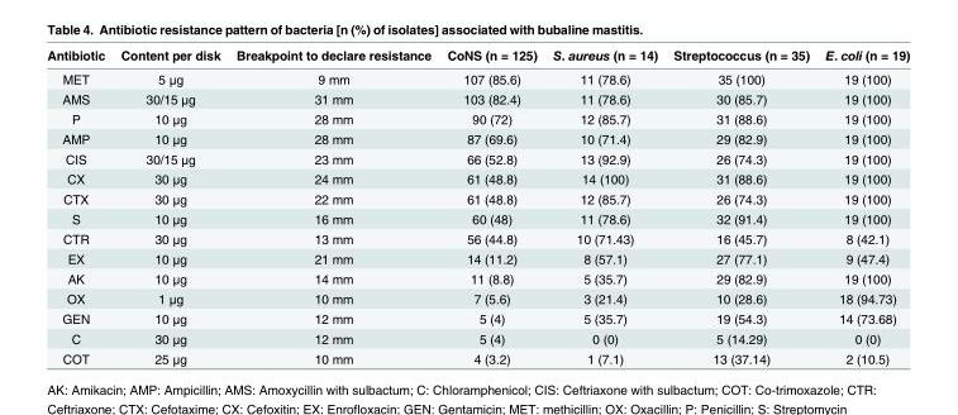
<table><thead><tr><td>Antibiotic</td><td>Content per disk</td><td>Breakpoint to declare resistance</td><td>CoNS (n = 125)</td><td>S. aureus (n = 14)</td><td>Streptococcus (n = 35)</td><td>E. coli (n = 19)</td></tr></thead><tbody><tr><td>MET</td><td>5 μg</td><td>9 mm</td><td>107 (85.6)</td><td>11 (78.6)</td><td>35 (100)</td><td>19 (100)</td></tr><tr><td>AMS</td><td>30/15 μg</td><td>31 mm</td><td>103 (82.4)</td><td>11 (78.6)</td><td>30 (85.7)</td><td>19 (100)</td></tr><tr><td>P</td><td>10 μg</td><td>28 mm</td><td>90 (72)</td><td>12 (85.7)</td><td>31 (88.6)</td><td>19 (100)</td></tr><tr><td>AMP</td><td>10 μg</td><td>28 mm</td><td>87 (69.6)</td><td>10 (71.4)</td><td>29 (82.9)</td><td>19 (100)</td></tr><tr><td>CIS</td><td>30/15 μg</td><td>23 mm</td><td>66 (52.8)</td><td>13 (92.9)</td><td>26 (74.3)</td><td>19 (100)</td></tr><tr><td>CX</td><td>30 μg</td><td>24 mm</td><td>61 (48.8)</td><td>14 (100)</td><td>31 (88.6)</td><td>19 (100)</td></tr><tr><td>CTX</td><td>30 μg</td><td>22 mm</td><td>61 (48.8)</td><td>12 (85.7)</td><td>26 (74.3)</td><td>19 (100)</td></tr><tr><td>S</td><td>10 μg</td><td>16 mm</td><td>60 (48)</td><td>11 (78.6)</td><td>32 (91.4)</td><td>19 (100)</td></tr><tr><td>CTR</td><td>30 μg</td><td>13 mm</td><td>56 (44.8)</td><td>10 (71.43)</td><td>16 (45.7)</td><td>8 (42.1)</td></tr><tr><td>EX</td><td>10 μg</td><td>21 mm</td><td>14 (11.2)</td><td>8 (57.1)</td><td>27 (77.1)</td><td>9 (47.4)</td></tr><tr><td>AK</td><td>10 μg</td><td>14 mm</td><td>11 (8.8)</td><td>5 (35.7)</td><td>29 (82.9)</td><td>19 (100)</td></tr><tr><td>OX</td><td>1 μg</td><td>10 mm</td><td>7 (5.6)</td><td>3 (21.4)</td><td>10 (28.6)</td><td>18 (94.73)</td></tr><tr><td>GEN</td><td>10 μg</td><td>12 mm</td><td>5 (4)</td><td>5 (35.7)</td><td>19 (54.3)</td><td>14 (73.68)</td></tr><tr><td>C</td><td>30 μg</td><td>12 mm</td><td>5 (4)</td><td>0 (0)</td><td>5 (14.29)</td><td>0 (0)</td></tr><tr><td>COT</td><td>25 μg</td><td>10 mm</td><td>4 (3.2)</td><td>1 (7.1)</td><td>13 (37.14)</td><td>2 (10.5)</td></tr></tbody></table>